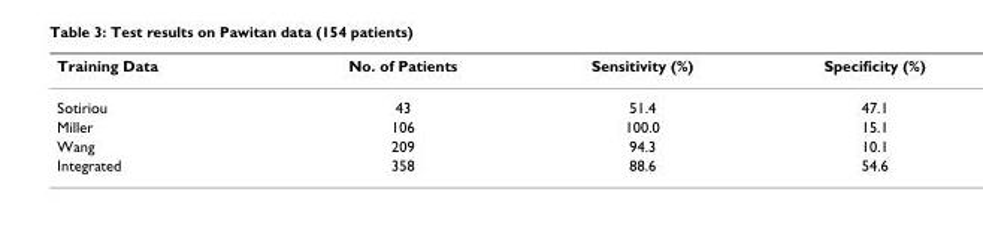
<table><thead><tr><td>Training Data</td><td>No. of Patients</td><td>Sensitivity (%)</td><td>Specificity (%)</td></tr></thead><tbody><tr><td>Sotiriou</td><td>43</td><td>51.4</td><td>47.1</td></tr><tr><td>Miller</td><td>106</td><td>100.0</td><td>15.1</td></tr><tr><td>Wang</td><td>209</td><td>94.3</td><td>10.1</td></tr><tr><td>Integrated</td><td>358</td><td>88.6</td><td>54.6</td></tr></tbody></table>